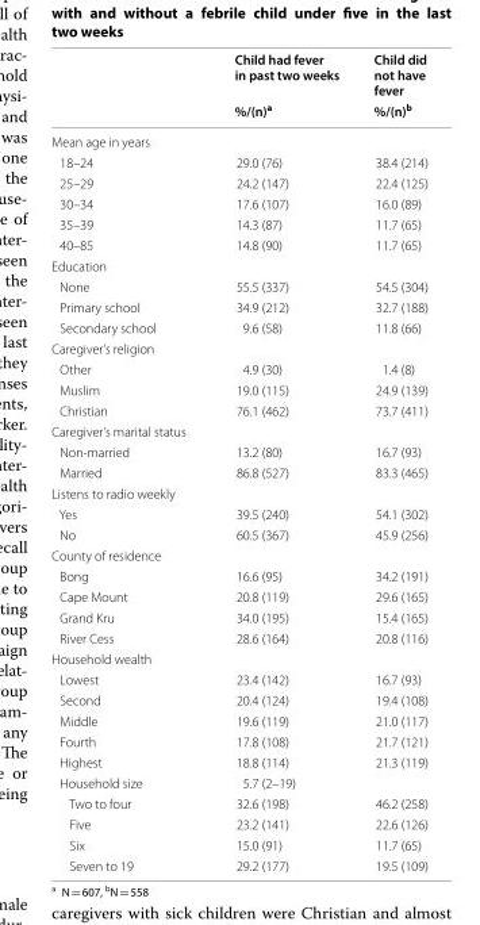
<table><thead><tr><td rowspan="2"></td><td rowspan="2">Child had fever in past two weeks %/(n)<sup>a</sup></td><td rowspan="2">Child did not have fever %/(n)<sup>b</sup></td></tr><tr></tr></thead><tbody><tr><td colspan="3">Mean age in years</td></tr><tr><td>18–24</td><td>29.0 (76)</td><td>38.4 (214)</td></tr><tr><td>25–29</td><td>24.2 (147)</td><td>22.4 (125)</td></tr><tr><td>30–34</td><td>17.6 (107)</td><td>16.0 (89)</td></tr><tr><td>35–39</td><td>14.3 (87)</td><td>11.7 (65)</td></tr><tr><td>40–85</td><td>14.8 (90)</td><td>11.7 (65)</td></tr><tr><td colspan="3">Education</td></tr><tr><td>None</td><td>55.5 (337)</td><td>54.5 (304)</td></tr><tr><td>Primary school</td><td>34.9 (212)</td><td>32.7 (188)</td></tr><tr><td>Secondary school</td><td>9.6 (58)</td><td>11.8 (66)</td></tr><tr><td colspan="3">Caregiver’s religion</td></tr><tr><td>Other</td><td>4.9 (30)</td><td>1.4 (8)</td></tr><tr><td>Muslim</td><td>19.0 (115)</td><td>24.9 (139)</td></tr><tr><td>Christian</td><td>76.1 (462)</td><td>73.7 (411)</td></tr><tr><td colspan="3">Caregiver’s marital status</td></tr><tr><td>Non-married</td><td>13.2 (80)</td><td>16.7 (93)</td></tr><tr><td>Married</td><td>86.8 (527)</td><td>83.3 (465)</td></tr><tr><td colspan="3">Listens to radio weekly</td></tr><tr><td>Yes</td><td>39.5 (240)</td><td>54.1 (302)</td></tr><tr><td>No</td><td>60.5 (367)</td><td>45.9 (256)</td></tr><tr><td colspan="3">County of residence</td></tr><tr><td>Bong</td><td>16.6 (95)</td><td>34.2 (191)</td></tr><tr><td>Cape Mount</td><td>20.8 (119)</td><td>29.6 (165)</td></tr><tr><td>Grand Kru</td><td>34.0 (195)</td><td>15.4 (165)</td></tr><tr><td>River Cess</td><td>28.6 (164)</td><td>20.8 (116)</td></tr><tr><td colspan="3">Household wealth</td></tr><tr><td>Lowest</td><td>23.4 (142)</td><td>16.7 (93)</td></tr><tr><td>Second</td><td>20.4 (124)</td><td>19.4 (108)</td></tr><tr><td>Middle</td><td>19.6 (119)</td><td>21.0 (117)</td></tr><tr><td>Fourth</td><td>17.8 (108)</td><td>21.7 (121)</td></tr><tr><td>Highest</td><td>18.8 (114)</td><td>21.3 (119)</td></tr><tr><td>Household size</td><td>5.7 (2–19)</td><td></td></tr><tr><td>Two to four</td><td>32.6 (198)</td><td>46.2 (258)</td></tr><tr><td>Five</td><td>23.2 (141)</td><td>22.6 (126)</td></tr><tr><td>Six</td><td>15.0 (91)</td><td>11.7 (65)</td></tr><tr><td>Seven to 19</td><td>29.2 (177)</td><td>19.5 (109)</td></tr></tbody></table>